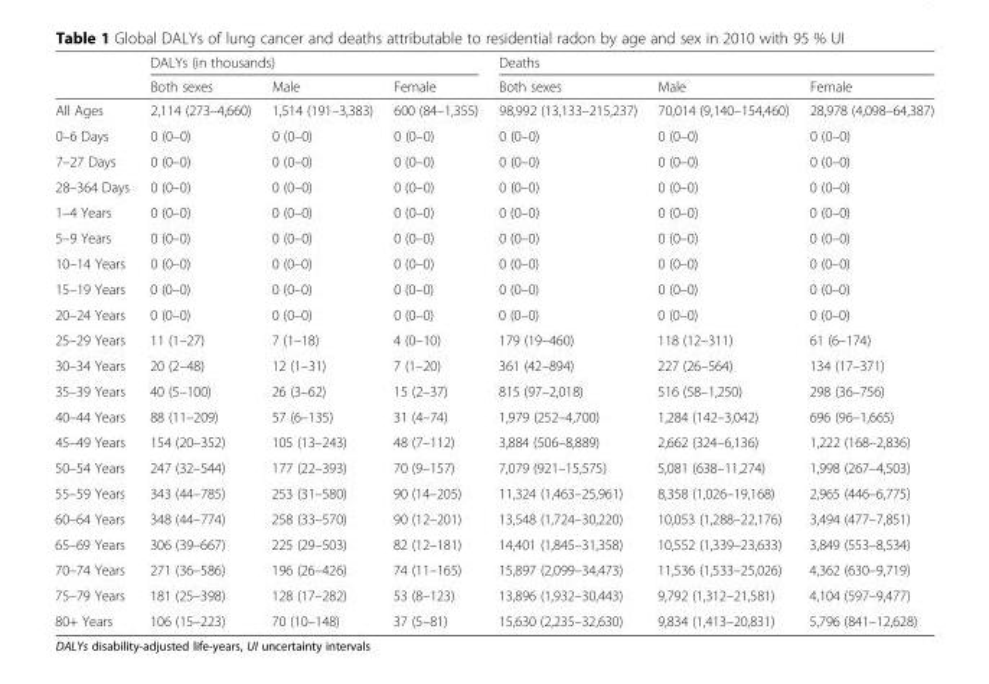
<table><thead><tr><td rowspan="2"></td><td colspan="3">DALYs (in thousands)</td><td colspan="3">Deaths</td></tr><tr><td>Both sexes</td><td>Male</td><td>Female</td><td>Both sexes</td><td>Male</td><td>Female</td></tr></thead><tbody><tr><td>All Ages</td><td>2,114 (273–4,660)</td><td>1,514 (191–3,383)</td><td>600 (84–1,355)</td><td>98,992 (13,133–215,237)</td><td>70,014 (9,140–154,460)</td><td>28,978 (4,098–64,387)</td></tr><tr><td>0–6 Days</td><td>0 (0–0)</td><td>0 (0–0)</td><td>0 (0–0)</td><td>0 (0–0)</td><td>0 (0–0)</td><td>0 (0–0)</td></tr><tr><td>7–27 Days</td><td>0 (0–0)</td><td>0 (0–0)</td><td>0 (0–0)</td><td>0 (0–0)</td><td>0 (0–0)</td><td>0 (0–0)</td></tr><tr><td>28–364 Days</td><td>0 (0–0)</td><td>0 (0–0)</td><td>0 (0–0)</td><td>0 (0–0)</td><td>0 (0–0)</td><td>0 (0–0)</td></tr><tr><td>1–4 Years</td><td>0 (0–0)</td><td>0 (0–0)</td><td>0 (0–0)</td><td>0 (0–0)</td><td>0 (0–0)</td><td>0 (0–0)</td></tr><tr><td>5–9 Years</td><td>0 (0–0)</td><td>0 (0–0)</td><td>0 (0–0)</td><td>0 (0–0)</td><td>0 (0–0)</td><td>0 (0–0)</td></tr><tr><td>10–14 Years</td><td>0 (0–0)</td><td>0 (0–0)</td><td>0 (0–0)</td><td>0 (0–0)</td><td>0 (0–0)</td><td>0 (0–0)</td></tr><tr><td>15–19 Years</td><td>0 (0–0)</td><td>0 (0–0)</td><td>0 (0–0)</td><td>0 (0–0)</td><td>0 (0–0)</td><td>0 (0–0)</td></tr><tr><td>20–24 Years</td><td>0 (0–0)</td><td>0 (0–0)</td><td>0 (0–0)</td><td>0 (0–0)</td><td>0 (0–0)</td><td>0 (0–0)</td></tr><tr><td>25–29 Years</td><td>11 (1–27)</td><td>7 (1–18)</td><td>4 (0–10)</td><td>179 (19–460)</td><td>118 (12–311)</td><td>61 (6–174)</td></tr><tr><td>30–34 Years</td><td>20 (2–48)</td><td>12 (1–31)</td><td>7 (1–20)</td><td>361 (42–894)</td><td>227 (26–564)</td><td>134 (17–371)</td></tr><tr><td>35–39 Years</td><td>40 (5–100)</td><td>26 (3–62)</td><td>15 (2–37)</td><td>815 (97–2,018)</td><td>516 (58–1,250)</td><td>298 (36–756)</td></tr><tr><td>40–44 Years</td><td>88 (11–209)</td><td>57 (6–135)</td><td>31 (4–74)</td><td>1,979 (252–4,700)</td><td>1,284 (142–3,042)</td><td>696 (96–1,665)</td></tr><tr><td>45–49 Years</td><td>154 (20–352)</td><td>105 (13–243)</td><td>48 (7–112)</td><td>3,884 (506–8,889)</td><td>2,662 (324–6,136)</td><td>1,222 (168–2,836)</td></tr><tr><td>50–54 Years</td><td>247 (32–544)</td><td>177 (22–393)</td><td>70 (9–157)</td><td>7,079 (921–15,575)</td><td>5,081 (638–11,274)</td><td>1,998 (267–4,503)</td></tr><tr><td>55–59 Years</td><td>343 (44–785)</td><td>253 (31–580)</td><td>90 (14–205)</td><td>11,324 (1,463–25,961)</td><td>8,358 (1,026–19,168)</td><td>2,965 (446–6,775)</td></tr><tr><td>60–64 Years</td><td>348 (44–774)</td><td>258 (33–570)</td><td>90 (12–201)</td><td>13,548 (1,724–30,220)</td><td>10,053 (1,288–22,176)</td><td>3,494 (477–7,851)</td></tr><tr><td>65–69 Years</td><td>306 (39–667)</td><td>225 (29–503)</td><td>82 (12–181)</td><td>14,401 (1,845–31,358)</td><td>10,552 (1,339–23,633)</td><td>3,849 (553–8,534)</td></tr><tr><td>70–74 Years</td><td>271 (36–586)</td><td>196 (26–426)</td><td>74 (11–165)</td><td>15,897 (2,099–34,473)</td><td>11,536 (1,533–25,026)</td><td>4,362 (630–9,719)</td></tr><tr><td>75–79 Years</td><td>181 (25–398)</td><td>128 (17–282)</td><td>53 (8–123)</td><td>13,896 (1,932–30,443)</td><td>9,792 (1,312–21,581)</td><td>4,104 (597–9,477)</td></tr><tr><td>80+ Years</td><td>106 (15–223)</td><td>70 (10–148)</td><td>37 (5–81)</td><td>15,630 (2,235–32,630)</td><td>9,834 (1,413–20,831)</td><td>5,796 (841–12,628)</td></tr></tbody></table>